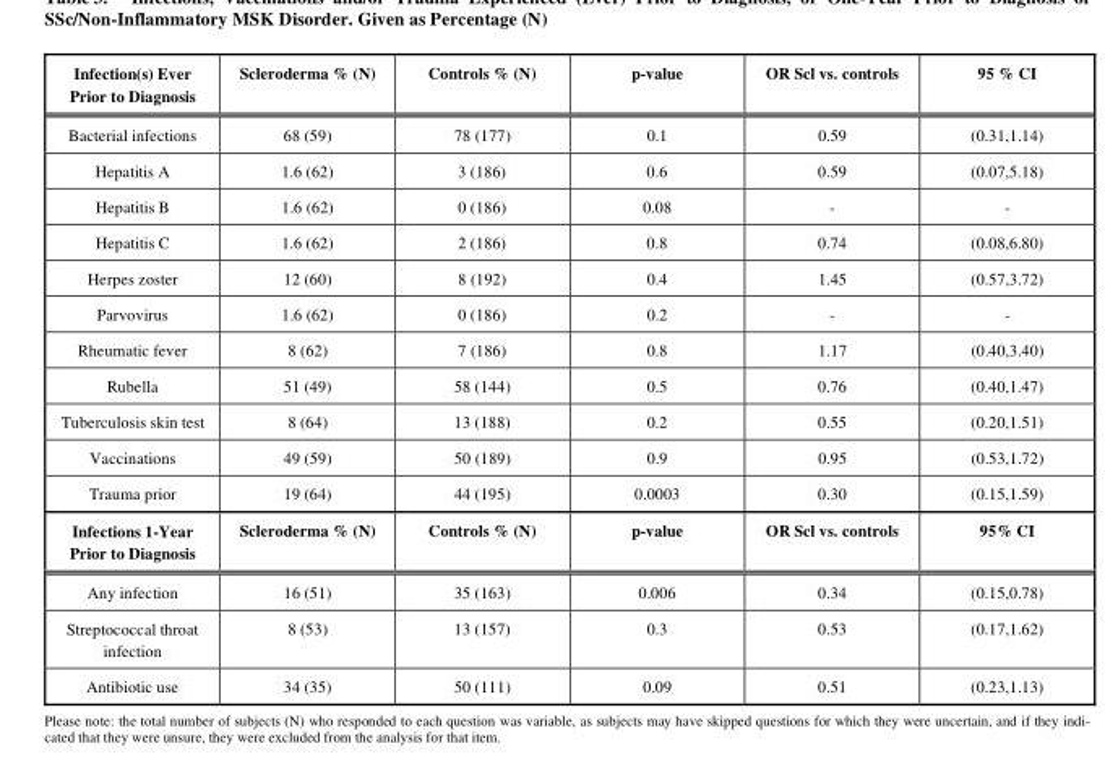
<table><thead><tr><td>Infection(s) Ever Prior to Diagnosis</td><td>Scleroderma % (N)</td><td>Controls % (N)</td><td>p-value</td><td>OR Scl vs. controls</td><td>95 % CI</td></tr></thead><tbody><tr><td>Bacterial infections</td><td>68 (59)</td><td>78 (177)</td><td>0.1</td><td>0.59</td><td>(0.31,1.14)</td></tr><tr><td>Hepatitis A</td><td>1.6 (62)</td><td>3 (186)</td><td>0.6</td><td>0.59</td><td>(0.07,5.18)</td></tr><tr><td>Hepatitis B</td><td>1.6 (62)</td><td>0 (186)</td><td>0.08</td><td>-</td><td>-</td></tr><tr><td>Hepatitis C</td><td>1.6 (62)</td><td>2 (186)</td><td>0.8</td><td>0.74</td><td>(0.08,6.80)</td></tr><tr><td>Herpes zoster</td><td>12 (60)</td><td>8 (192)</td><td>0.4</td><td>1.45</td><td>(0.57,3.72)</td></tr><tr><td>Parvovirus</td><td>1.6 (62)</td><td>0 (186)</td><td>0.2</td><td>-</td><td>-</td></tr><tr><td>Rheumatic fever</td><td>8 (62)</td><td>7 (186)</td><td>0.8</td><td>1.17</td><td>(0.40,3.40)</td></tr><tr><td>Rubella</td><td>51 (49)</td><td>58 (144)</td><td>0.5</td><td>0.76</td><td>(0.40,1.47)</td></tr><tr><td>Tuberculosis skin test</td><td>8 (64)</td><td>13 (188)</td><td>0.2</td><td>0.55</td><td>(0.20,1.51)</td></tr><tr><td>Vaccinations</td><td>49 (59)</td><td>50 (189)</td><td>0.9</td><td>0.95</td><td>(0.53,1.72)</td></tr><tr><td>Trauma prior</td><td>19 (64)</td><td>44 (195)</td><td>0.0003</td><td>0.30</td><td>(0.15,1.59)</td></tr><tr><td>Infections 1-Year Prior to Diagnosis</td><td>Scleroderma % (N)</td><td>Controls % (N)</td><td>p-value</td><td>OR Scl vs. controls</td><td>95% CI</td></tr><tr><td>Any infection</td><td>16 (51)</td><td>35 (163)</td><td>0.006</td><td>0.34</td><td>(0.15,0.78)</td></tr><tr><td>Streptococcal throat infection</td><td>8 (53)</td><td>13 (157)</td><td>0.3</td><td>0.53</td><td>(0.17,1.62)</td></tr><tr><td>Antibiotic use</td><td>34 (35)</td><td>50 (111)</td><td>0.09</td><td>0.51</td><td>(0.23,1.13)</td></tr></tbody></table>